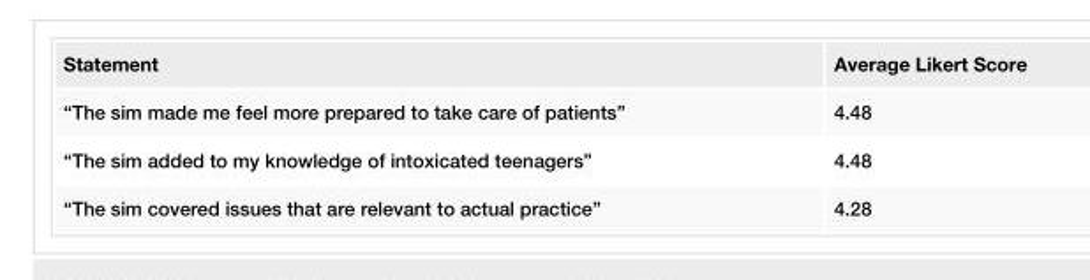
<table><tbody><tr><td>Statement</td><td>Average Likert Score</td></tr><tr><td>“The sim made me feel more prepared to take care of patients”</td><td>4.48</td></tr><tr><td>“The sim added to my knowledge of intoxicated teenagers”</td><td>4.48</td></tr><tr><td>“The sim covered issues that are relevant to actual practice”</td><td>4.28</td></tr></tbody></table>